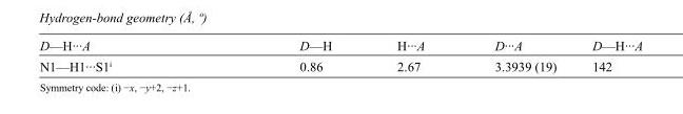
<table><tbody><tr><td>D—H···A</td><td>D—H</td><td>H···A</td><td>D···A</td><td>D—H···A</td></tr><tr><td>N1—H1···S1<sup>i</sup></td><td>0.86</td><td>2.67</td><td>3.3939 (19)</td><td>142</td></tr></tbody></table>